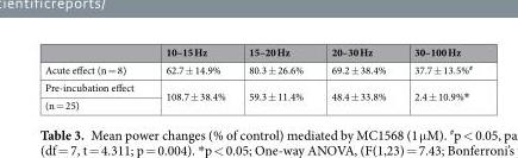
<table><thead><tr><td></td><td>10–15 Hz</td><td>15–20 Hz</td><td>20–30 Hz</td><td>30–100 Hz</td></tr></thead><tbody><tr><td>Acute effect (n = 8)</td><td>62.7 ± 14.9%</td><td>80.3 ± 26.6%</td><td>69.2 ± 38.4%</td><td>37.7 ± 13.5%<sup>#</sup></td></tr><tr><td>Pre-incubation effect</td><td rowspan="2">108.7 ± 38.4%</td><td rowspan="2">59.3 ± 11.4%</td><td rowspan="2">48.4 ± 33.8%</td><td rowspan="2">2.4 ± 10.9%*</td></tr><tr><td>(n = 25)</td></tr></tbody></table>